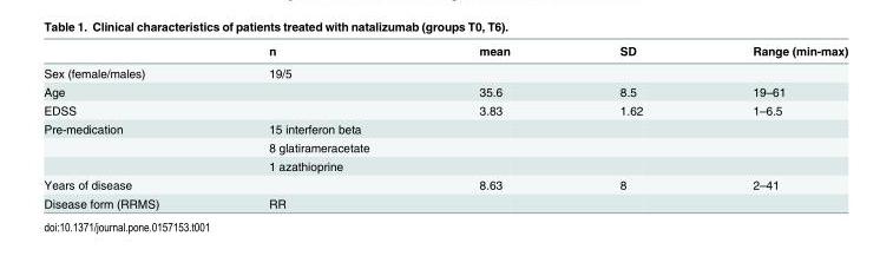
<table><thead><tr><td></td><td>n</td><td>mean</td><td>SD</td><td>Range (min-max)</td></tr></thead><tbody><tr><td>Sex (female/males)</td><td>19/5</td><td></td><td></td><td></td></tr><tr><td>Age</td><td></td><td>35.6</td><td>8.5</td><td>19–61</td></tr><tr><td>EDSS</td><td></td><td>3.83</td><td>1.62</td><td>1–6.5</td></tr><tr><td rowspan="3">Pre-medication</td><td>15 interferon beta</td><td></td><td></td><td></td></tr><tr><td>8 glatirameracetate</td><td></td><td></td><td></td></tr><tr><td>1 azathioprine</td><td></td><td></td><td></td></tr><tr><td>Years of disease</td><td></td><td>8.63</td><td>8</td><td>2–41</td></tr><tr><td>Disease form (RRMS)</td><td>RR</td><td></td><td></td><td></td></tr></tbody></table>